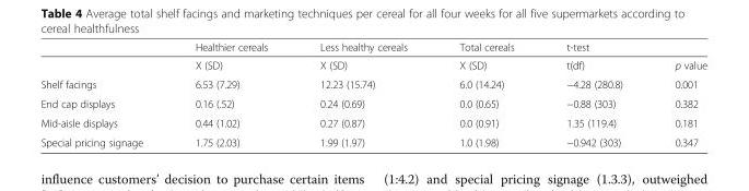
<table><thead><tr><td rowspan="2"></td><td rowspan="2">Healthier cereals X (SD)</td><td rowspan="2">Less healthy cereals X (SD)</td><td rowspan="2">Total cereals X (SD)</td><td colspan="2">t-test</td></tr><tr><td>t(df)</td><td>p value</td></tr></thead><tbody><tr><td>Shelf facings</td><td>6.53 (7.29)</td><td>12.23 (15.74)</td><td>6.0 (14.24)</td><td>−4.28 (280.8)</td><td>0.001</td></tr><tr><td>End cap displays</td><td>0.16 (.52)</td><td>0.24 (0.69)</td><td>0.0 (0.65)</td><td>−0.88 (303)</td><td>0.382</td></tr><tr><td>Mid-aisle displays</td><td>0.44 (1.02)</td><td>0.27 (0.87)</td><td>0.0 (0.91)</td><td>1.35 (119.4)</td><td>0.181</td></tr><tr><td>Special pricing signage</td><td>1.75 (2.03)</td><td>1.99 (1.97)</td><td>1.0 (1.98)</td><td>−0.942 (303)</td><td>0.347</td></tr></tbody></table>